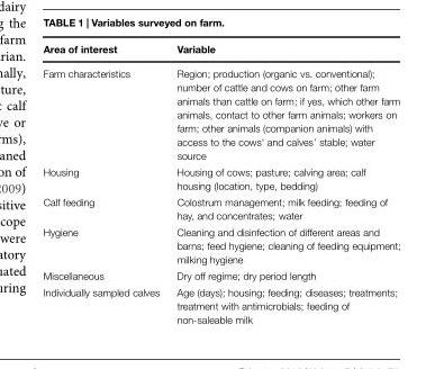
<table><thead><tr><td>Area of interest</td><td>Variable</td></tr></thead><tbody><tr><td>Farm characteristics</td><td>Region; production (organic vs. conventional); number of cattle and cows on farm; other farm animals than cattle on farm; if yes, which other farm animals, contact to other farm animals; workers on farm; other animals (companion animals) with access to the cows‘ and calves’ stable; water source</td></tr><tr><td>Housing</td><td>Housing of cows; pasture; calving area; calf housing (location, type, bedding)</td></tr><tr><td>Calf feeding</td><td>Colostrum management; milk feeding; feeding of hay, and concentrates; water</td></tr><tr><td>Hygiene</td><td>Cleaning and disinfection of different areas and barns; feed hygiene; cleaning of feeding equipment; milking hygiene</td></tr><tr><td>Miscellaneous</td><td>Dry off regime; dry period length</td></tr><tr><td>Individually sampled calves</td><td>Age (days); housing; feeding; diseases; treatments; treatment with antimicrobials; feeding of non-saleable milk</td></tr></tbody></table>